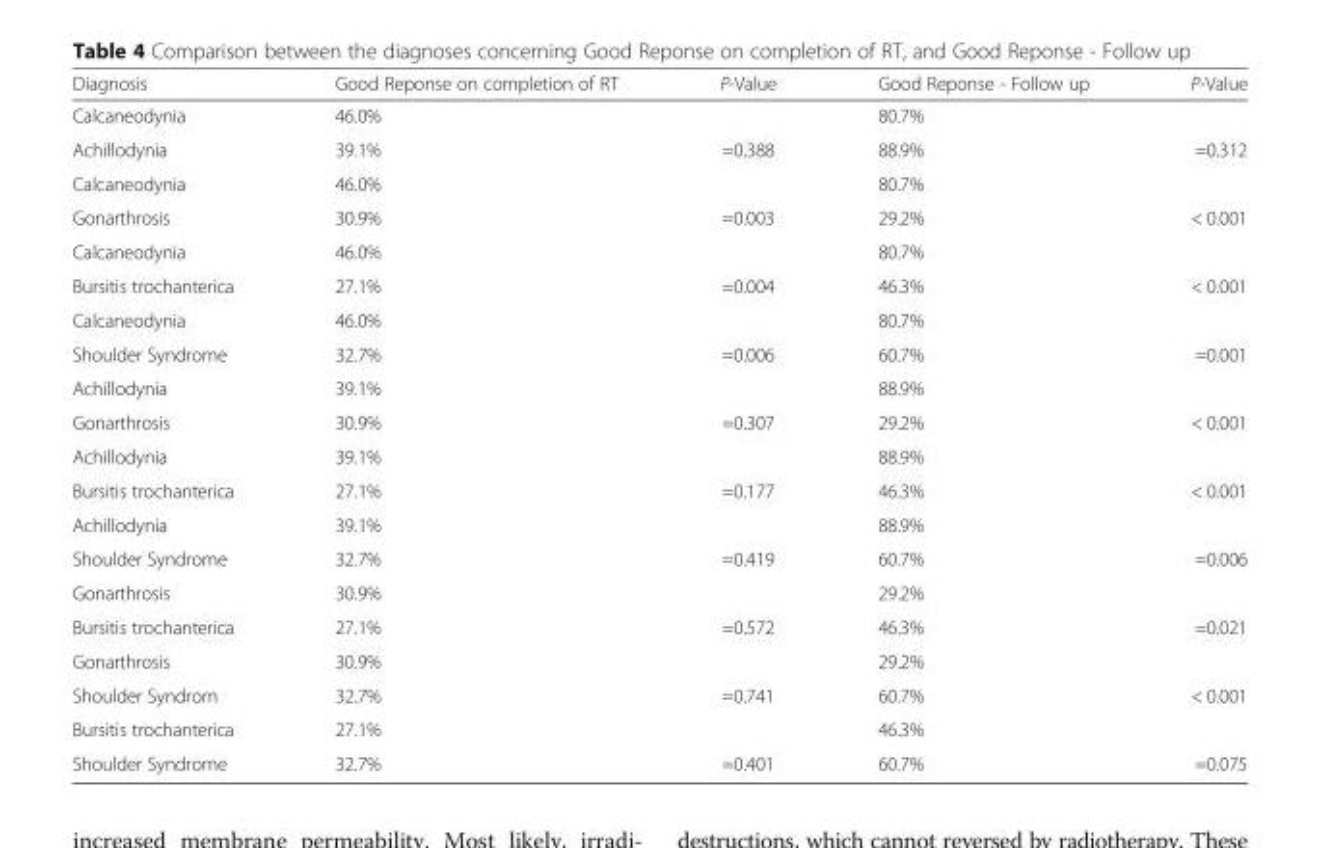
<table><thead><tr><td>Diagnosis</td><td>Good Reponse on completion of RT</td><td>P-Value</td><td>Good Reponse - Follow up</td><td>P-Value</td></tr></thead><tbody><tr><td>Calcaneodynia</td><td>46.0%</td><td></td><td>80.7%</td><td></td></tr><tr><td>Achillodynia</td><td>39.1%</td><td>=0.388</td><td>88.9%</td><td>=0.312</td></tr><tr><td>Calcaneodynia</td><td>46.0%</td><td></td><td>80.7%</td><td></td></tr><tr><td>Gonarthrosis</td><td>30.9%</td><td>=0.003</td><td>29.2%</td><td>&lt; 0.001</td></tr><tr><td>Calcaneodynia</td><td>46.0%</td><td></td><td>80.7%</td><td></td></tr><tr><td>Bursitis trochanterica</td><td>27.1%</td><td>=0.004</td><td>46.3%</td><td>&lt; 0.001</td></tr><tr><td>Calcaneodynia</td><td>46.0%</td><td></td><td>80.7%</td><td></td></tr><tr><td>Shoulder Syndrome</td><td>32.7%</td><td>=0.006</td><td>60.7%</td><td>=0.001</td></tr><tr><td>Achillodynia</td><td>39.1%</td><td></td><td>88.9%</td><td></td></tr><tr><td>Gonarthrosis</td><td>30.9%</td><td>=0.307</td><td>29.2%</td><td>&lt; 0.001</td></tr><tr><td>Achillodynia</td><td>39.1%</td><td></td><td>88.9%</td><td></td></tr><tr><td>Bursitis trochanterica</td><td>27.1%</td><td>=0.177</td><td>46.3%</td><td>&lt; 0.001</td></tr><tr><td>Achillodynia</td><td>39.1%</td><td></td><td>88.9%</td><td></td></tr><tr><td>Shoulder Syndrome</td><td>32.7%</td><td>=0.419</td><td>60.7%</td><td>=0.006</td></tr><tr><td>Gonarthrosis</td><td>30.9%</td><td></td><td>29.2%</td><td></td></tr><tr><td>Bursitis trochanterica</td><td>27.1%</td><td>=0.572</td><td>46.3%</td><td>=0.021</td></tr><tr><td>Gonarthrosis</td><td>30.9%</td><td></td><td>29.2%</td><td></td></tr><tr><td>Shoulder Syndrom</td><td>32.7%</td><td>=0.741</td><td>60.7%</td><td>&lt; 0.001</td></tr><tr><td>Bursitis trochanterica</td><td>27.1%</td><td></td><td>46.3%</td><td></td></tr><tr><td>Shoulder Syndrome</td><td>32.7%</td><td>=0.401</td><td>60.7%</td><td>=0.075</td></tr></tbody></table>